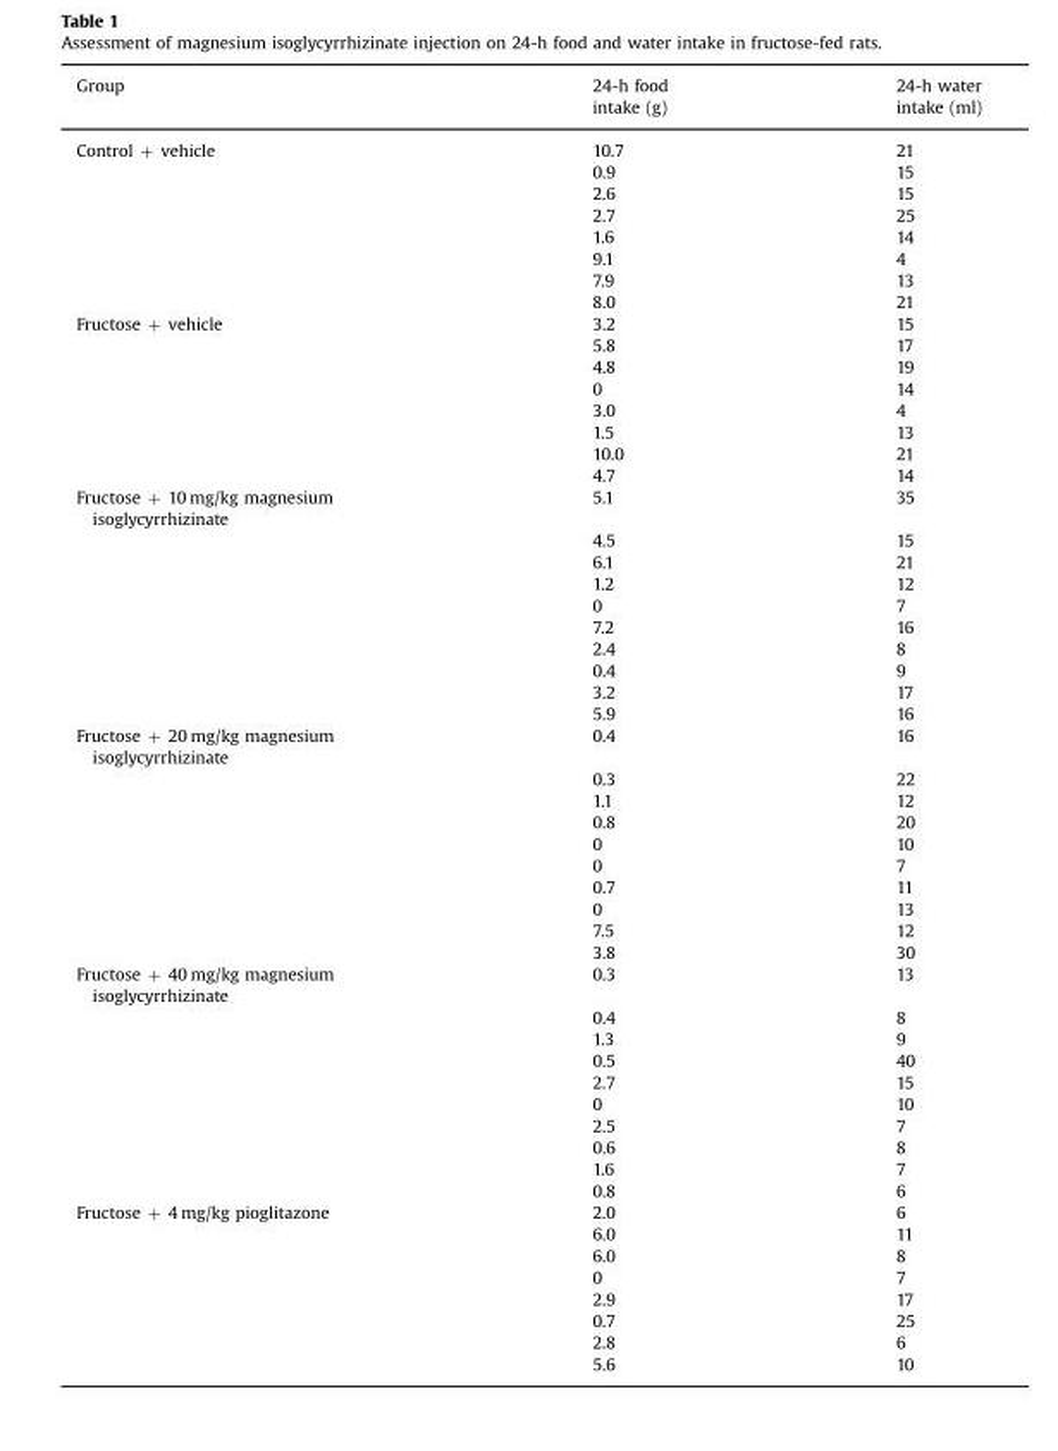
<table><thead><tr><td>Group</td><td>24-h food intake (g)</td><td>24-h water intake (ml)</td></tr></thead><tbody><tr><td rowspan="8">Control + vehicle</td><td>10.7</td><td>21</td></tr><tr><td>0.9</td><td>15</td></tr><tr><td>2.6</td><td>15</td></tr><tr><td>2.7</td><td>25</td></tr><tr><td>1.6</td><td>14</td></tr><tr><td>9.1</td><td>4</td></tr><tr><td>7.9</td><td>13</td></tr><tr><td>8.0</td><td>21</td></tr><tr><td rowspan="8">Fructose + vehicle</td><td>3.2</td><td>15</td></tr><tr><td>5.8</td><td>17</td></tr><tr><td>4.8</td><td>19</td></tr><tr><td>0</td><td>14</td></tr><tr><td>3.0</td><td>4</td></tr><tr><td>1.5</td><td>13</td></tr><tr><td>10.0</td><td>21</td></tr><tr><td>4.7</td><td>14</td></tr><tr><td rowspan="10">Fructose + 10 mg/kg magnesium isoglycyrrhizinate</td><td>5.1</td><td>35</td></tr><tr><td>4.5</td><td>15</td></tr><tr><td>6.1</td><td>21</td></tr><tr><td>1.2</td><td>12</td></tr><tr><td>0</td><td>7</td></tr><tr><td>7.2</td><td>16</td></tr><tr><td>2.4</td><td>8</td></tr><tr><td>0.4</td><td>9</td></tr><tr><td>3.2</td><td>17</td></tr><tr><td>5.9</td><td>16</td></tr><tr><td rowspan="10">Fructose + 20 mg/kg magnesium isoglycyrrhizinate</td><td>0.4</td><td>16</td></tr><tr><td>0.3</td><td>22</td></tr><tr><td>1.1</td><td>12</td></tr><tr><td>0.8</td><td>20</td></tr><tr><td>0</td><td>10</td></tr><tr><td>0</td><td>7</td></tr><tr><td>0.7</td><td>11</td></tr><tr><td>0</td><td>13</td></tr><tr><td>7.5</td><td>12</td></tr><tr><td>3.8</td><td>30</td></tr><tr><td rowspan="10">Fructose + 40 mg/kg magnesium isoglycyrrhizinate</td><td>0.3</td><td>13</td></tr><tr><td>0.4</td><td>8</td></tr><tr><td>1.3</td><td>9</td></tr><tr><td>0.5</td><td>40</td></tr><tr><td>2.7</td><td>15</td></tr><tr><td>0</td><td>10</td></tr><tr><td>2.5</td><td>7</td></tr><tr><td>0.6</td><td>8</td></tr><tr><td>1.6</td><td>7</td></tr><tr><td>0.8</td><td>6</td></tr><tr><td rowspan="8">Fructose + 4 mg/kg pioglitazone</td><td>2.0</td><td>6</td></tr><tr><td>6.0</td><td>11</td></tr><tr><td>6.0</td><td>8</td></tr><tr><td>0</td><td>7</td></tr><tr><td>2.9</td><td>17</td></tr><tr><td>0.7</td><td>25</td></tr><tr><td>2.8</td><td>6</td></tr><tr><td>5.6</td><td>10</td></tr></tbody></table>